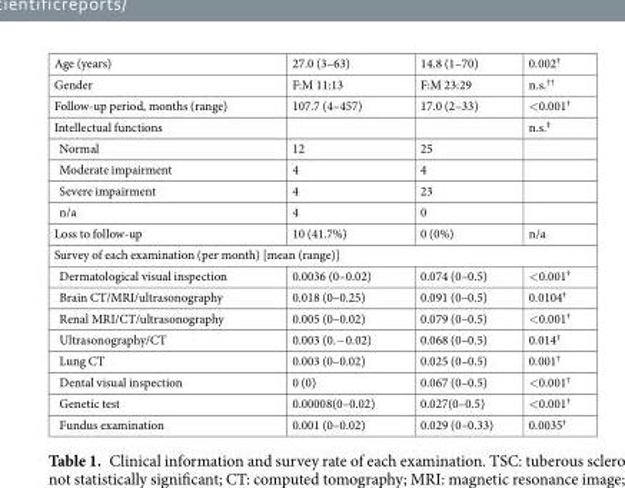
<table><tbody><tr><td>Age (years)</td><td>27.0 (3–63)</td><td>14.8 (1–70)</td><td>0.002<sup>†</sup></td></tr><tr><td>Gender</td><td>F:M 11:13</td><td>F:M 23:29</td><td>n.s.<sup>††</sup></td></tr><tr><td>Follow-up period, months (range)</td><td>107.7 (4–457)</td><td>17.0 (2–33)</td><td>&lt;0.001<sup>†</sup></td></tr><tr><td>Intellectual functions</td><td></td><td></td><td>n.s.<sup>‡</sup></td></tr><tr><td>Normal</td><td>12</td><td>25</td><td></td></tr><tr><td>Moderate impairment</td><td>4</td><td>4</td><td></td></tr><tr><td>Severe impairment</td><td>4</td><td>23</td><td></td></tr><tr><td>n/a</td><td>4</td><td>0</td><td></td></tr><tr><td>Loss to follow-up</td><td>10 (41.7%)</td><td>0 (0%)</td><td>n/a</td></tr><tr><td colspan="4">Survey of each examination (per month) [mean (range)]</td></tr><tr><td>Dermatological visual inspection</td><td>0.0036 (0–0.02)</td><td>0.074 (0–0.5)</td><td>&lt;0.001<sup>†</sup></td></tr><tr><td>Brain CT/MRI/ultrasonography</td><td>0.018 (0–0.25)</td><td>0.091 (0–0.5)</td><td>0.0104<sup>†</sup></td></tr><tr><td>Renal MRI/CT/ultrasonography</td><td>0.005 (0–0.02)</td><td>0.079 (0–0.5)</td><td>&lt;0.001<sup>†</sup></td></tr><tr><td>Ultrasonography/CT</td><td>0.003 (0.−0.02)</td><td>0.068 (0–0.5)</td><td>0.014<sup>†</sup></td></tr><tr><td>Lung CT</td><td>0.003 (0–0.02)</td><td>0.025 (0–0.5)</td><td>0.001<sup>†</sup></td></tr><tr><td>Dental visual inspection</td><td>0 (0)</td><td>0.067 (0–0.5)</td><td>&lt;0.001<sup>†</sup></td></tr><tr><td>Genetic test</td><td>0.00008(0–0.02)</td><td>0.027(0–0.5)</td><td>&lt;0.001<sup>†</sup></td></tr><tr><td>Fundus examination</td><td>0.001 (0–0.02)</td><td>0.029 (0–0.33)</td><td>0.0035<sup>†</sup></td></tr></tbody></table>